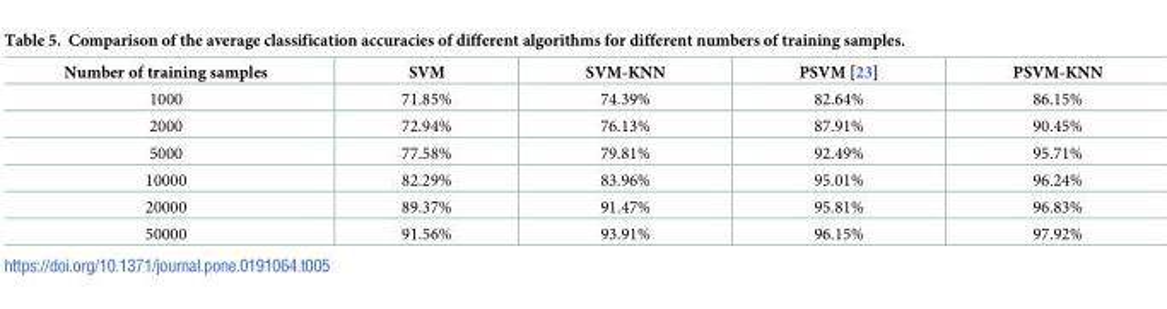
<table><thead><tr><td>Number of training samples</td><td>SVM</td><td>SVM-KNN</td><td>PSVM [23]</td><td>PSVM-KNN</td></tr></thead><tbody><tr><td>1000</td><td>71.85%</td><td>74.39%</td><td>82.64%</td><td>86.15%</td></tr><tr><td>2000</td><td>72.94%</td><td>76.13%</td><td>87.91%</td><td>90.45%</td></tr><tr><td>5000</td><td>77.58%</td><td>79.81%</td><td>92.49%</td><td>95.71%</td></tr><tr><td>10000</td><td>82.29%</td><td>83.96%</td><td>95.01%</td><td>96.24%</td></tr><tr><td>20000</td><td>89.37%</td><td>91.47%</td><td>95.81%</td><td>96.83%</td></tr><tr><td>50000</td><td>91.56%</td><td>93.91%</td><td>96.15%</td><td>97.92%</td></tr></tbody></table>